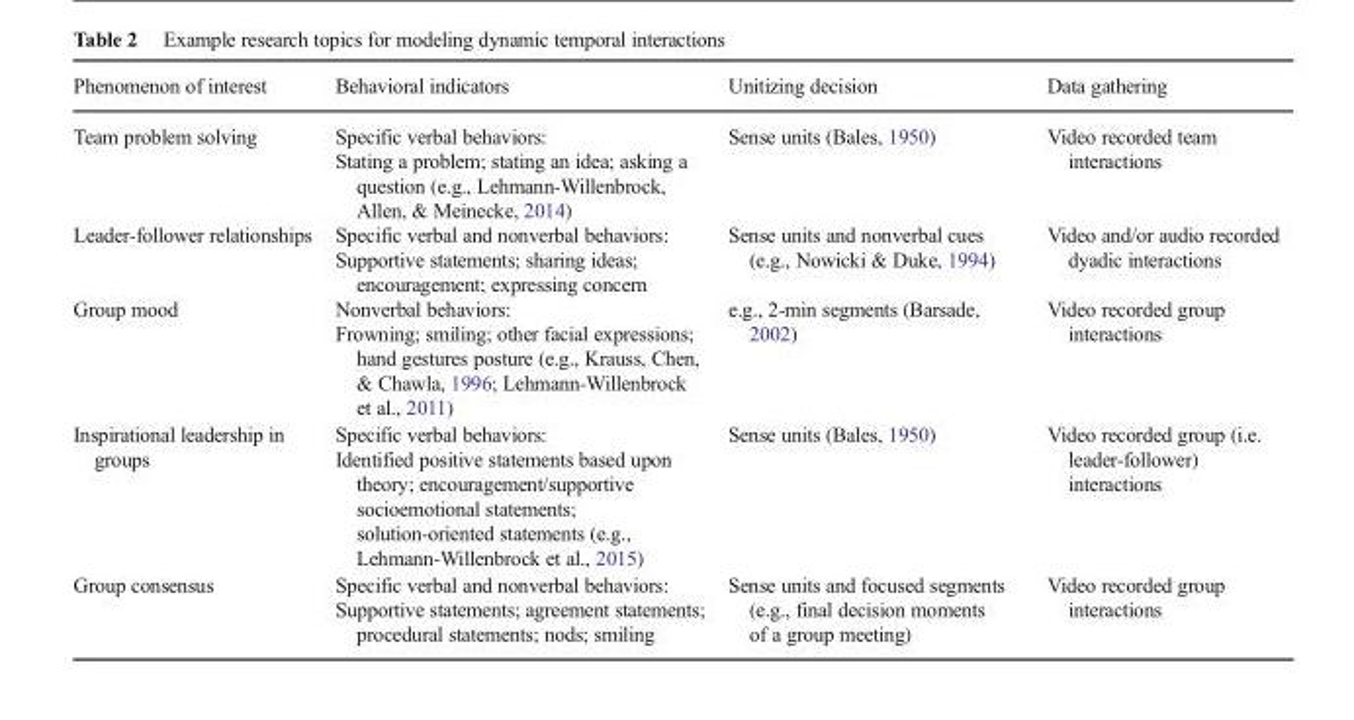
<table><thead><tr><td>Phenomenon of interest</td><td>Behavioral indicators</td><td>Unitizing decision</td><td>Data gathering</td></tr></thead><tbody><tr><td>Team problem solving</td><td>Specific verbal behaviors: Stating a problem; stating an idea; asking a question (e.g., Lehmann-Willenbrock, Allen, &amp; Meinecke, 2014)</td><td>Sense units (Bales, 1950)</td><td>Video recorded team interactions</td></tr><tr><td>Leader-follower relationships</td><td>Specific verbal and nonverbal behaviors: Supportive statements; sharing ideas; encouragement; expressing concern</td><td>Sense units and nonverbal cues (e.g., Nowicki &amp; Duke, 1994)</td><td>Video and/or audio recorded dyadic interactions</td></tr><tr><td>Group mood</td><td>Nonverbal behaviors: Frowning; smiling; other facial expressions; hand gestures posture (e.g., Krauss, Chen, &amp; Chawla, 1996; Lehmann-Willenbrock et al., 2011)</td><td>e.g., 2-min segments (Barsade, 2002)</td><td>Video recorded group interactions</td></tr><tr><td>Inspirational leadership in groups</td><td>Specific verbal behaviors: Identified positive statements based upon theory; encouragement/supportive socioemotional statements; solution-oriented statements (e.g., Lehmann-Willenbrock et al., 2015)</td><td>Sense units (Bales, 1950)</td><td>Video recorded group (i.e. leader-follower) interactions</td></tr><tr><td>Group consensus</td><td>Specific verbal and nonverbal behaviors: Supportive statements; agreement statements; procedural statements; nods; smiling</td><td>Sense units and focused segments (e.g., final decision moments of a group meeting)</td><td>Video recorded group interactions</td></tr></tbody></table>